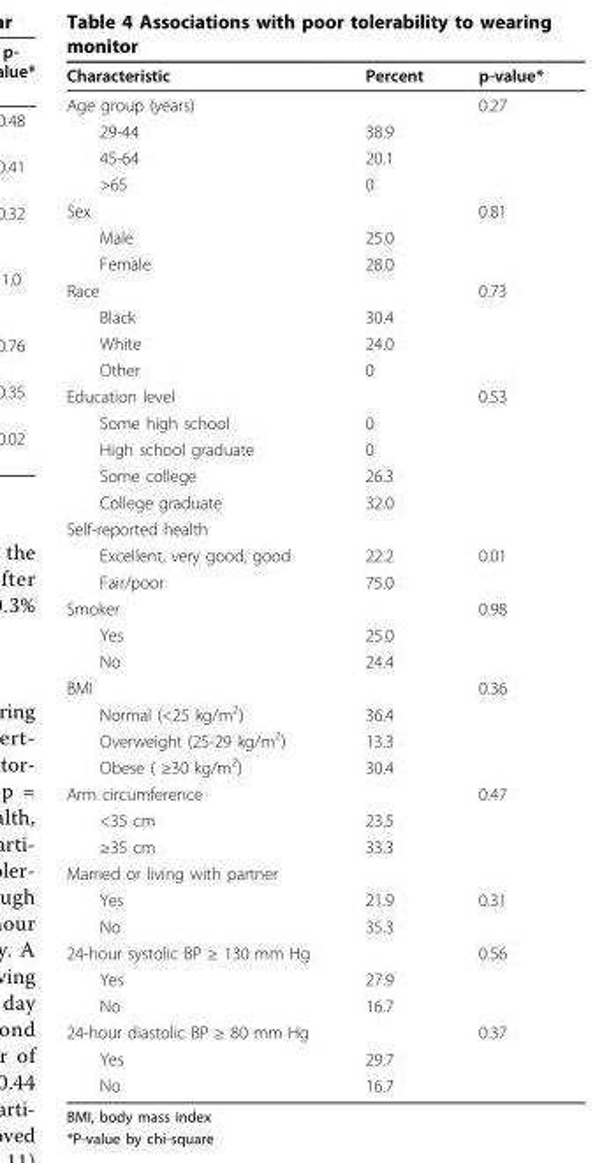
<table><thead><tr><td>Characteristic</td><td>Percent</td><td>p-value*</td></tr></thead><tbody><tr><td>Age group (years)</td><td></td><td>0.27</td></tr><tr><td>29-44</td><td>38.9</td><td></td></tr><tr><td>45-64</td><td>20.1</td><td></td></tr><tr><td>&gt;65</td><td>0</td><td></td></tr><tr><td>Sex</td><td></td><td>0.81</td></tr><tr><td>Male</td><td>25.0</td><td></td></tr><tr><td>Female</td><td>28.0</td><td></td></tr><tr><td>Race</td><td></td><td>0.73</td></tr><tr><td>Black</td><td>30.4</td><td></td></tr><tr><td>White</td><td>24.0</td><td></td></tr><tr><td>Other</td><td>0</td><td></td></tr><tr><td>Education level</td><td></td><td>0.53</td></tr><tr><td>Some high school</td><td>0</td><td></td></tr><tr><td>High school graduate</td><td>0</td><td></td></tr><tr><td>Some college</td><td>26.3</td><td></td></tr><tr><td>College graduate</td><td>32.0</td><td></td></tr><tr><td colspan="3">Self-reported health</td></tr><tr><td>Excellent, very good, good</td><td>22.2</td><td>0.01</td></tr><tr><td>Fair/poor</td><td>75.0</td><td></td></tr><tr><td>Smoker</td><td></td><td>0.98</td></tr><tr><td>Yes</td><td>25.0</td><td></td></tr><tr><td>No</td><td>24.4</td><td></td></tr><tr><td>BMI</td><td></td><td>0.36</td></tr><tr><td>Normal (&lt;25 kg/m<sup>2</sup>)</td><td>36.4</td><td></td></tr><tr><td>Overweight (25-29 kg/m<sup>2</sup>)</td><td>13.3</td><td></td></tr><tr><td>Obese ( ≥30 kg/m<sup>2</sup>)</td><td>30.4</td><td></td></tr><tr><td>Arm circumference</td><td></td><td>0.47</td></tr><tr><td>&lt;35 cm</td><td>23.5</td><td></td></tr><tr><td>≥35 cm</td><td>33.3</td><td></td></tr><tr><td colspan="3">Married or living with partner</td></tr><tr><td>Yes</td><td>21.9</td><td>0.31</td></tr><tr><td>No</td><td>35.3</td><td></td></tr><tr><td>24-hour systolic BP ≥ 130 mm Hg</td><td></td><td>0.56</td></tr><tr><td>Yes</td><td>27.9</td><td></td></tr><tr><td>No</td><td>16.7</td><td></td></tr><tr><td>24-hour diastolic BP ≥ 80 mm Hg</td><td></td><td>0.37</td></tr><tr><td>Yes</td><td>29.7</td><td></td></tr><tr><td>No</td><td>16.7</td><td></td></tr></tbody></table>